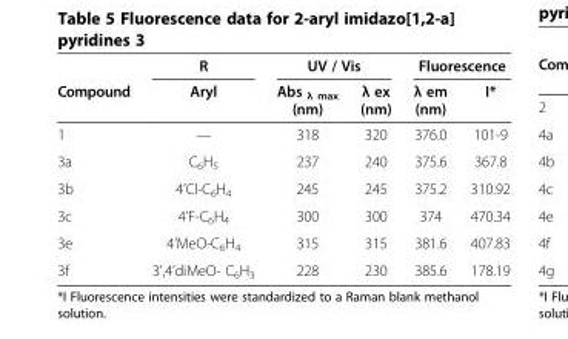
<table><thead><tr><td rowspan="2">Compound</td><td rowspan="2">R Aryl</td><td colspan="2">UV / Vis</td><td colspan="2">Fluorescence</td></tr><tr><td>Abs <sub>λ max</sub> (nm)</td><td>λ ex (nm)</td><td>λ em (nm)</td><td>I*</td></tr></thead><tbody><tr><td>1</td><td>—</td><td>318</td><td>320</td><td>376.0</td><td>101-9</td></tr><tr><td>3a</td><td>C<sub>6</sub>H<sub>5</sub></td><td>237</td><td>240</td><td>375.6</td><td>367.8</td></tr><tr><td>3b</td><td>4’Cl-C<sub>6</sub>H<sub>4</sub></td><td>245</td><td>245</td><td>375.2</td><td>310.92</td></tr><tr><td>3c</td><td>4’F-C<sub>6</sub>H<sub>4</sub></td><td>300</td><td>300</td><td>374</td><td>470.34</td></tr><tr><td>3e</td><td>4’MeO-C<sub>6</sub>H<sub>4</sub></td><td>315</td><td>315</td><td>381.6</td><td>407.83</td></tr><tr><td>3f</td><td>3’,4’diMeO- C<sub>6</sub>H<sub>3</sub></td><td>228</td><td>230</td><td>385.6</td><td>178.19</td></tr></tbody></table>